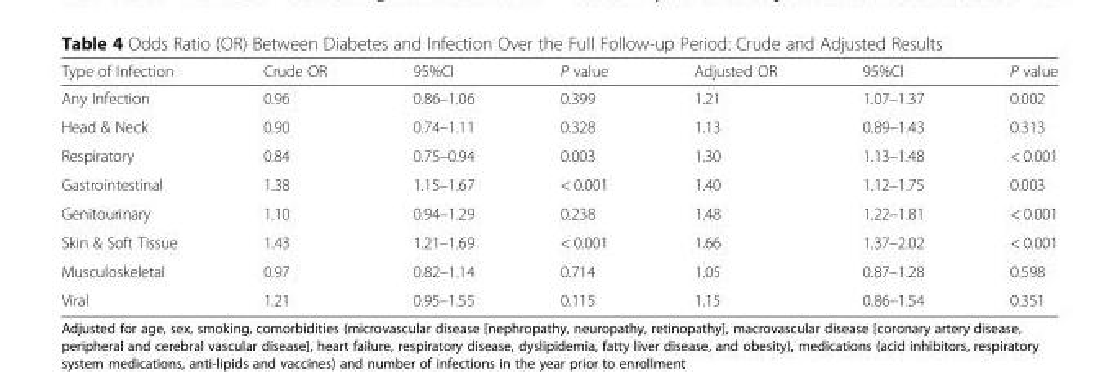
<table><thead><tr><td>Type of Infection</td><td>Crude OR</td><td>95%CI</td><td>P value</td><td>Adjusted OR</td><td>95%CI</td><td>P value</td></tr></thead><tbody><tr><td>Any Infection</td><td>0.96</td><td>0.86–1.06</td><td>0.399</td><td>1.21</td><td>1.07–1.37</td><td>0.002</td></tr><tr><td>Head &amp; Neck</td><td>0.90</td><td>0.74–1.11</td><td>0.328</td><td>1.13</td><td>0.89–1.43</td><td>0.313</td></tr><tr><td>Respiratory</td><td>0.84</td><td>0.75–0.94</td><td>0.003</td><td>1.30</td><td>1.13–1.48</td><td>&lt; 0.001</td></tr><tr><td>Gastrointestinal</td><td>1.38</td><td>1.15–1.67</td><td>&lt; 0.001</td><td>1.40</td><td>1.12–1.75</td><td>0.003</td></tr><tr><td>Genitourinary</td><td>1.10</td><td>0.94–1.29</td><td>0.238</td><td>1.48</td><td>1.22–1.81</td><td>&lt; 0.001</td></tr><tr><td>Skin &amp; Soft Tissue</td><td>1.43</td><td>1.21–1.69</td><td>&lt; 0.001</td><td>1.66</td><td>1.37–2.02</td><td>&lt; 0.001</td></tr><tr><td>Musculoskeletal</td><td>0.97</td><td>0.82–1.14</td><td>0.714</td><td>1.05</td><td>0.87–1.28</td><td>0.598</td></tr><tr><td>Viral</td><td>1.21</td><td>0.95–1.55</td><td>0.115</td><td>1.15</td><td>0.86–1.54</td><td>0.351</td></tr></tbody></table>